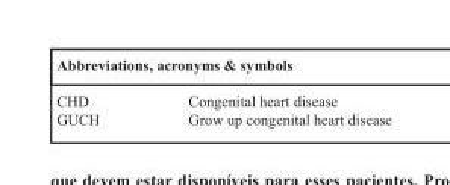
<table><thead><tr><td colspan="2">Abbreviations, acronyms &amp; symbols</td></tr><tr><td>CHD</td><td>Congenital heart disease</td></tr></thead><tbody><tr><td>GUCH</td><td>Grow up congenital heart disease</td></tr></tbody></table>